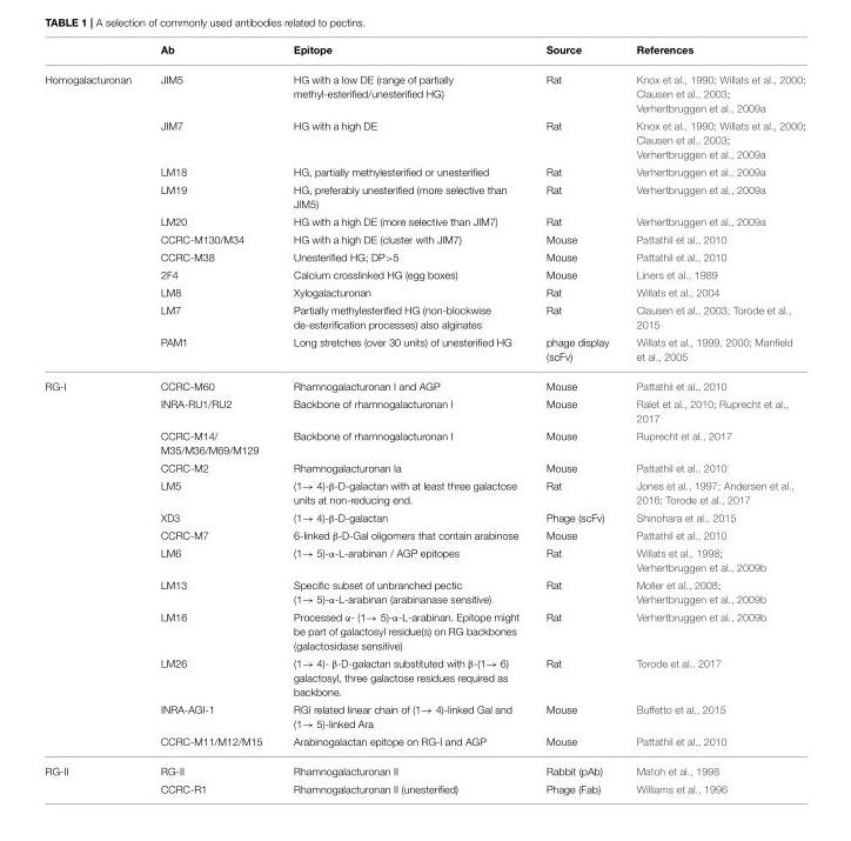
<table><thead><tr><td></td><td>Ab</td><td>Epitope</td><td>Source</td><td>References</td></tr></thead><tbody><tr><td rowspan="11">Homogalacturonan</td><td>JIM5</td><td>HG with a low DE (range of partially methyl-esterified/unesterified HG)</td><td>Rat</td><td>Knox et al., 1990; Willats et al., 2000; Clausen et al., 2003; Verhertbruggen et al., 2009a</td></tr><tr><td>JIM7</td><td>HG with a high DE</td><td>Rat</td><td>Knox et al., 1990; Willats et al., 2000; Clausen et al., 2003; Verhertbruggen et al., 2009a</td></tr><tr><td>LM18</td><td>HG, partially methylesterified or unesterified</td><td>Rat</td><td>Verhertbruggen et al., 2009a</td></tr><tr><td>LM19</td><td>HG, preferably unesterified (more selective than JIM5)</td><td>Rat</td><td>Verhertbruggen et al., 2009a</td></tr><tr><td>LM20</td><td>HG with a high DE (more selective than JIM7)</td><td>Rat</td><td>Verhertbruggen et al., 2009a</td></tr><tr><td>CCRC-M130/M34</td><td>HG with a high DE (cluster with JIM7)</td><td>Mouse</td><td>Pattathil et al., 2010</td></tr><tr><td>CCRC-M38</td><td>Unesterified HG; DP&gt;5</td><td>Mouse</td><td>Pattathil et al., 2010</td></tr><tr><td>2F4</td><td>Calcium crosslinked HG (egg boxes)</td><td>Mouse</td><td>Liners et al., 1989</td></tr><tr><td>LM8</td><td>Xylogalacturonan</td><td>Rat</td><td>Willats et al., 2004</td></tr><tr><td>LM7</td><td>Partially methylesterified HG (non-blockwise de-esterification processes) also alginates</td><td>Rat</td><td>Clausen et al., 2003; Torode et al., 2015</td></tr><tr><td>PAM1</td><td>Long stretches (over 30 units) of unesterified HG</td><td>phage display (scFv)</td><td>Willats et al., 1999, 2000; Manfield et al., 2005</td></tr><tr><td rowspan="13">RG-I</td><td>CCRC-M60</td><td>Rhamnogalacturonan I and AGP</td><td>Mouse</td><td>Pattathil et al., 2010</td></tr><tr><td>INRA-RU1/RU2</td><td>Backbone of rhamnogalacturonan I</td><td>Mouse</td><td>Ralet et al., 2010; Ruprecht et al., 2017</td></tr><tr><td>CCRC-M14/ M35/M36/M69/M129</td><td>Backbone of rhamnogalacturonan I</td><td>Mouse</td><td>Ruprecht et al., 2017</td></tr><tr><td>CCRC-M2</td><td>Rhamnogalacturonan Ia</td><td>Mouse</td><td>Pattathil et al., 2010</td></tr><tr><td>LM5</td><td>(1→ 4)-β-D-galactan with at least three galactose units at non-reducing end.</td><td>Rat</td><td>Jones et al., 1997; Andersen et al., 2016; Torode et al., 2017</td></tr><tr><td>XD3</td><td>(1→ 4)-β-D-galactan</td><td>Phage (scFv)</td><td>Shinohara et al., 2015</td></tr><tr><td>CCRC-M7</td><td>6-linked β-D-Gal oligomers that contain arabinose</td><td>Mouse</td><td>Pattathil et al., 2010</td></tr><tr><td>LM6</td><td>(1→ 5)-α-L-arabinan / AGP epitopes</td><td>Rat</td><td>Willats et al., 1998; Verhertbruggen et al., 2009b</td></tr><tr><td>LM13</td><td>Specific subset of unbranched pectic (1→ 5)-α-L-arabinan (arabinanase sensitive)</td><td>Rat</td><td>Moller et al., 2008; Verhertbruggen et al., 2009b</td></tr><tr><td>LM16</td><td>Processed α- (1→ 5)-α-L-arabinan. Epitope might be part of galactosyl residue(s) on RG backbones (galactosidase sensitive)</td><td>Rat</td><td>Verhertbruggen et al., 2009b</td></tr><tr><td>LM26</td><td>(1→ 4)- β-D-galactan substituted with β-(1→ 6) galactosyl, three galactose residues required as backbone.</td><td>Rat</td><td>Torode et al., 2017</td></tr><tr><td>INRA-AGI-1</td><td>RGI related linear chain of (1→ 4)-linked Gal and (1→ 5)-linked Ara</td><td>Mouse</td><td>Buffetto et al., 2015</td></tr><tr><td>CCRC-M11/M12/M15</td><td>Arabinogalactan epitope on RG-I and AGP</td><td>Mouse</td><td>Pattathil et al., 2010</td></tr><tr><td rowspan="2">RG-II</td><td>RG-II</td><td>Rhamnogalacturonan II</td><td>Rabbit (pAb)</td><td>Matoh et al., 1998</td></tr><tr><td>CCRC-R1</td><td>Rhamnogalacturonan II (unesterified)</td><td>Phage (Fab)</td><td>Williams et al., 1996</td></tr></tbody></table>